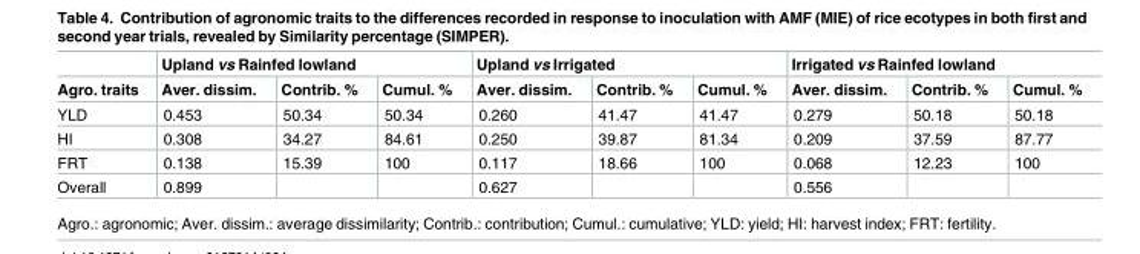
<table><thead><tr><td rowspan="2">Agro. traits</td><td colspan="3">Upland vs Rainfed lowland</td><td colspan="3">Upland vs Irrigated</td><td colspan="3">Irrigated vs Rainfed lowland</td></tr><tr><td>Aver. dissim.</td><td>Contrib. %</td><td>Cumul. %</td><td>Aver. dissim.</td><td>Contrib. %</td><td>Cumul. %</td><td>Aver. dissim.</td><td>Contrib. %</td><td>Cumul. %</td></tr></thead><tbody><tr><td>YLD</td><td>0.453</td><td>50.34</td><td>50.34</td><td>0.260</td><td>41.47</td><td>41.47</td><td>0.279</td><td>50.18</td><td>50.18</td></tr><tr><td>HI</td><td>0.308</td><td>34.27</td><td>84.61</td><td>0.250</td><td>39.87</td><td>81.34</td><td>0.209</td><td>37.59</td><td>87.77</td></tr><tr><td>FRT</td><td>0.138</td><td>15.39</td><td>100</td><td>0.117</td><td>18.66</td><td>100</td><td>0.068</td><td>12.23</td><td>100</td></tr><tr><td>Overall</td><td>0.899</td><td></td><td></td><td>0.627</td><td></td><td></td><td>0.556</td><td></td><td></td></tr></tbody></table>